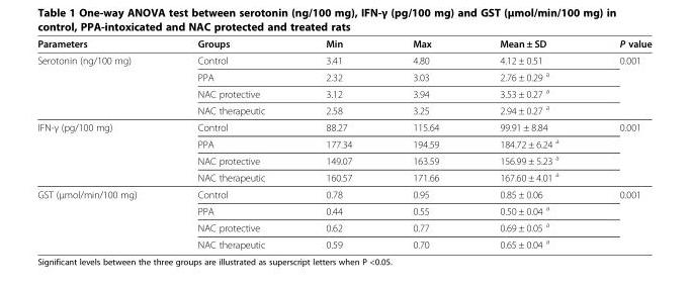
<table><thead><tr><td>Parameters</td><td>Groups</td><td>Min</td><td>Max</td><td>Mean ± SD</td><td>P value</td></tr></thead><tbody><tr><td rowspan="4">Serotonin (ng/100 mg)</td><td>Control</td><td>3.41</td><td>4.80</td><td>4.12 ± 0.51</td><td rowspan="4">0.001</td></tr><tr><td>PPA</td><td>2.32</td><td>3.03</td><td>2.76 ± 0.29 <sup>a</sup></td></tr><tr><td>NAC protective</td><td>3.12</td><td>3.94</td><td>3.53 ± 0.27 <sup>a</sup></td></tr><tr><td>NAC therapeutic</td><td>2.58</td><td>3.25</td><td>2.94 ± 0.27 <sup>a</sup></td></tr><tr><td rowspan="4">IFN-γ (pg/100 mg)</td><td>Control</td><td>88.27</td><td>115.64</td><td>99.91 ± 8.84</td><td rowspan="4">0.001</td></tr><tr><td>PPA</td><td>177.34</td><td>194.59</td><td>184.72 ± 6.24 <sup>a</sup></td></tr><tr><td>NAC protective</td><td>149.07</td><td>163.59</td><td>156.99 ± 5.23 <sup>a</sup></td></tr><tr><td>NAC therapeutic</td><td>160.57</td><td>171.66</td><td>167.60 ± 4.01 <sup>a</sup></td></tr><tr><td rowspan="4">GST (μmol/min/100 mg)</td><td>Control</td><td>0.78</td><td>0.95</td><td>0.85 ± 0.06</td><td rowspan="4">0.001</td></tr><tr><td>PPA</td><td>0.44</td><td>0.55</td><td>0.50 ± 0.04 <sup>a</sup></td></tr><tr><td>NAC protective</td><td>0.62</td><td>0.77</td><td>0.69 ± 0.05 <sup>a</sup></td></tr><tr><td>NAC therapeutic</td><td>0.59</td><td>0.70</td><td>0.65 ± 0.04 <sup>a</sup></td></tr></tbody></table>